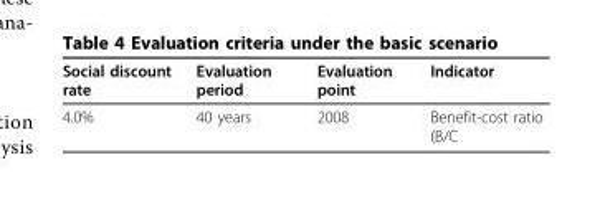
<table><thead><tr><td>Social discount rate</td><td>Evaluation period</td><td>Evaluation point</td><td>Indicator</td></tr></thead><tbody><tr><td>4.0%</td><td>40 years</td><td>2008</td><td>Benefit-cost ratio (B/C</td></tr></tbody></table>